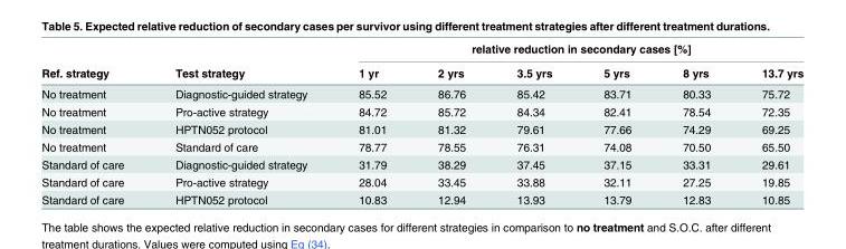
<table><thead><tr><td rowspan="2">Ref. strategy</td><td rowspan="2">Test strategy</td><td colspan="6">relative reduction in secondary cases [%]</td></tr><tr><td>1 yr</td><td>2 yrs</td><td>3.5 yrs</td><td>5 yrs</td><td>8 yrs</td><td>13.7 yrs</td></tr></thead><tbody><tr><td>No treatment</td><td>Diagnostic-guided strategy</td><td>85.52</td><td>86.76</td><td>85.42</td><td>83.71</td><td>80.33</td><td>75.72</td></tr><tr><td>No treatment</td><td>Pro-active strategy</td><td>84.72</td><td>85.72</td><td>84.34</td><td>82.41</td><td>78.54</td><td>72.35</td></tr><tr><td>No treatment</td><td>HPTN052 protocol</td><td>81.01</td><td>81.32</td><td>79.61</td><td>77.66</td><td>74.29</td><td>69.25</td></tr><tr><td>No treatment</td><td>Standard of care</td><td>78.77</td><td>78.55</td><td>76.31</td><td>74.08</td><td>70.50</td><td>65.50</td></tr><tr><td>Standard of care</td><td>Diagnostic-guided strategy</td><td>31.79</td><td>38.29</td><td>37.45</td><td>37.15</td><td>33.31</td><td>29.61</td></tr><tr><td>Standard of care</td><td>Pro-active strategy</td><td>28.04</td><td>33.45</td><td>33.88</td><td>32.11</td><td>27.25</td><td>19.85</td></tr><tr><td>Standard of care</td><td>HPTN052 protocol</td><td>10.83</td><td>12.94</td><td>13.93</td><td>13.79</td><td>12.83</td><td>10.85</td></tr></tbody></table>